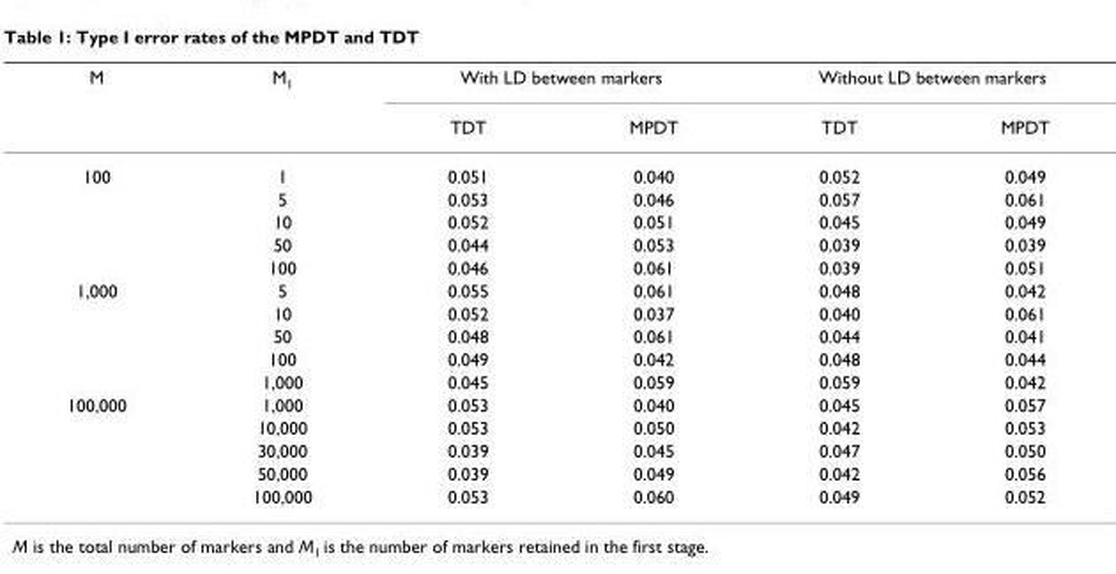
<table><thead><tr><td rowspan="2">M</td><td rowspan="2">M<sub>1</sub></td><td colspan="2">With LD between markers</td><td colspan="2">Without LD between markers</td></tr><tr><td>TDT</td><td>MPDT</td><td>TDT</td><td>MPDT</td></tr></thead><tbody><tr><td rowspan="5">100</td><td>1</td><td>0.051</td><td>0.040</td><td>0.052</td><td>0.049</td></tr><tr><td>5</td><td>0.053</td><td>0.046</td><td>0.057</td><td>0.061</td></tr><tr><td>10</td><td>0.052</td><td>0.051</td><td>0.045</td><td>0.049</td></tr><tr><td>50</td><td>0.044</td><td>0.053</td><td>0.039</td><td>0.039</td></tr><tr><td>100</td><td>0.046</td><td>0.061</td><td>0.039</td><td>0.051</td></tr><tr><td rowspan="5">1,000</td><td>5</td><td>0.055</td><td>0.061</td><td>0.048</td><td>0.042</td></tr><tr><td>10</td><td>0.052</td><td>0.037</td><td>0.040</td><td>0.061</td></tr><tr><td>50</td><td>0.048</td><td>0.061</td><td>0.044</td><td>0.041</td></tr><tr><td>100</td><td>0.049</td><td>0.042</td><td>0.048</td><td>0.044</td></tr><tr><td>1,000</td><td>0.045</td><td>0.059</td><td>0.059</td><td>0.042</td></tr><tr><td rowspan="5">100,000</td><td>1,000</td><td>0.053</td><td>0.040</td><td>0.045</td><td>0.057</td></tr><tr><td>10,000</td><td>0.053</td><td>0.050</td><td>0.042</td><td>0.053</td></tr><tr><td>30,000</td><td>0.039</td><td>0.045</td><td>0.047</td><td>0.050</td></tr><tr><td>50,000</td><td>0.039</td><td>0.049</td><td>0.042</td><td>0.056</td></tr><tr><td>100,000</td><td>0.053</td><td>0.060</td><td>0.049</td><td>0.052</td></tr></tbody></table>